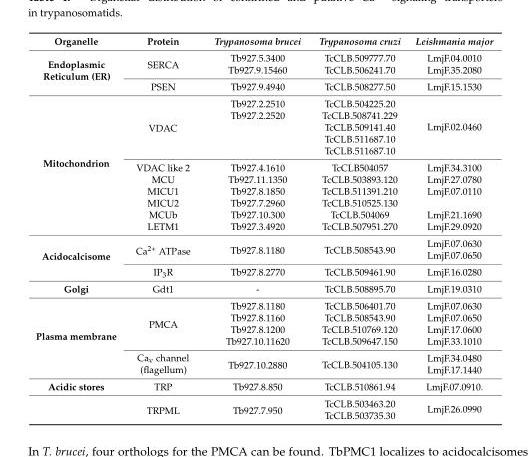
<table><thead><tr><td>Organelle</td><td>Protein</td><td>Trypanosoma brucei</td><td>Trypanosoma cruzi</td><td>Leishmania major</td></tr></thead><tbody><tr><td rowspan="3">Endoplasmic Reticulum (ER)</td><td rowspan="2">SERCA</td><td>Tb927.5.3400</td><td>TcCLB.509777.70</td><td>LmjF.04.0010</td></tr><tr><td>Tb927.9.15460</td><td>TcCLB.506241.70</td><td>LmjF.35.2080</td></tr><tr><td>PSEN</td><td>Tb927.9.4940</td><td>TcCLB.508277.50</td><td>LmjF.15.1530</td></tr><tr><td rowspan="11">Mitochondrion</td><td rowspan="5">VDAC</td><td>Tb927.2.2510</td><td>TcCLB.504225.20</td><td rowspan="5">LmjF.02.0460</td></tr><tr><td>Tb927.2.2520</td><td>TcCLB.508741.229</td></tr><tr><td></td><td>TcCLB.509141.40</td></tr><tr><td></td><td>TcCLB.511687.10</td></tr><tr><td></td><td>TcCLB.511687.10</td></tr><tr><td>VDAC like 2</td><td>Tb927.4.1610</td><td>TcCLB504057</td><td>LmjF.34.3100</td></tr><tr><td>MCU</td><td>Tb927.11.1350</td><td>TcCLB.503893.120</td><td>LmjF.27.0780</td></tr><tr><td>MICU1</td><td>Tb927.8.1850</td><td>TcCLB.511391.210</td><td>LmjF.07.0110</td></tr><tr><td>MICU2</td><td>Tb927.7.2960</td><td>TcCLB.510525.130</td><td></td></tr><tr><td>MCUb</td><td>Tb927.10.300</td><td>TcCLB.504069</td><td>LmjF.21.1690</td></tr><tr><td>LETM1</td><td>Tb927.3.4920</td><td>TcCLB.507951.270</td><td>LmjF.29.0920</td></tr><tr><td rowspan="3">Acidocalcisome</td><td rowspan="2">Ca<sup>2+</sup> ATPase</td><td rowspan="2">Tb927.8.1180</td><td rowspan="2">TcCLB.508543.90</td><td>LmjF.07.0630</td></tr><tr><td>LmjF.07.0650</td></tr><tr><td>IP<sub>3</sub>R</td><td>Tb927.8.2770</td><td>TcCLB.509461.90</td><td>LmjF.16.0280</td></tr><tr><td>Golgi</td><td>Gdt1</td><td>-</td><td>TcCLB.508895.70</td><td>LmjF.19.0310</td></tr><tr><td rowspan="6">Plasma membrane</td><td rowspan="4">PMCA</td><td>Tb927.8.1180</td><td>TcCLB.506401.70</td><td>LmjF.07.0630</td></tr><tr><td>Tb927.8.1160</td><td>TcCLB.508543.90</td><td>LmjF.07.0650</td></tr><tr><td>Tb927.8.1200</td><td>TcCLB.510769.120</td><td>LmjF.17.0600</td></tr><tr><td>Tb927.10.11620</td><td>TcCLB.509647.150</td><td>LmjF.33.1010</td></tr><tr><td rowspan="2">Ca<sub>v</sub> channel (flagellum)</td><td rowspan="2">Tb927.10.2880</td><td rowspan="2">TcCLB.504105.130</td><td>LmjF.34.0480</td></tr><tr><td>LmjF.17.1440</td></tr><tr><td rowspan="3">Acidic stores</td><td>TRP</td><td>Tb927.8.850</td><td>TcCLB.510861.94</td><td>LmjF.07.0910.</td></tr><tr><td rowspan="2">TRPML</td><td rowspan="2">Tb927.7.950</td><td>TcCLB.503463.20</td><td rowspan="2">LmjF.26.0990</td></tr><tr><td>TcCLB.503735.30</td></tr></tbody></table>